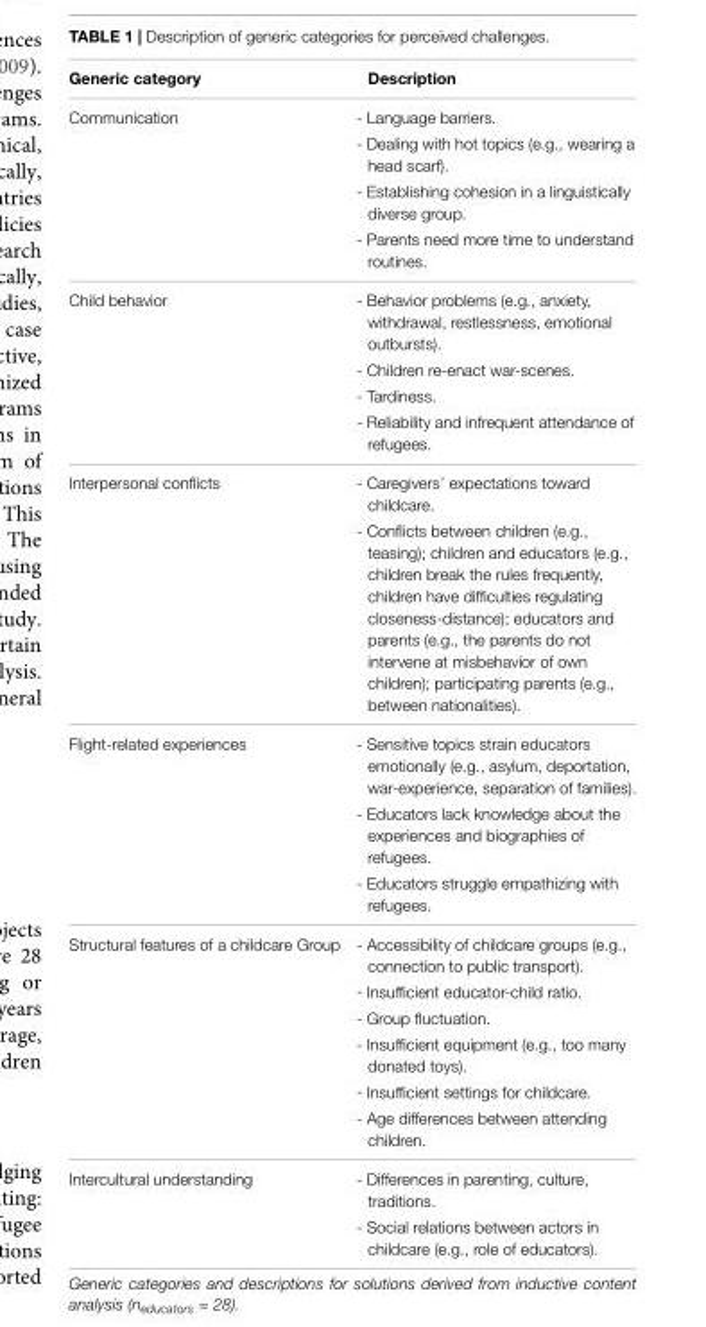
<table><thead><tr><td>Generic category</td><td>Description</td></tr></thead><tbody><tr><td rowspan="4">Communication</td><td>- Language barriers.</td></tr><tr><td>- Dealing with hot topics (e.g., wearing a head scarf).</td></tr><tr><td>- Establishing cohesion in a linguistically diverse group.</td></tr><tr><td>- Parents need more time to understand routines.</td></tr><tr><td rowspan="4">Child behavior</td><td>- Behavior problems (e.g., anxiety, withdrawal, restlessness, emotional outbursts).</td></tr><tr><td>- Children re-enact war-scenes.</td></tr><tr><td>- Tardiness.</td></tr><tr><td>- Reliability and infrequent attendance of refugees.</td></tr><tr><td rowspan="2">Interpersonal conflicts</td><td>- Caregivers’ expectations toward childcare.</td></tr><tr><td>- Conflicts between children (e.g., teasing); children and educators (e.g., children break the rules frequently, children have difficulties regulating closeness-distance); educators and parents (e.g., the parents do not intervene at misbehavior of own children); participating parents (e.g., between nationalities).</td></tr><tr><td rowspan="3">Flight-related experiences</td><td>- Sensitive topics strain educators emotionally (e.g., asylum, deportation, war-experience, separation of families).</td></tr><tr><td>- Educators lack knowledge about the experiences and biographies of refugees.</td></tr><tr><td>- Educators struggle empathizing with refugees.</td></tr><tr><td rowspan="6">Structural features of a childcare Group</td><td>- Accessibility of childcare groups (e.g., connection to public transport).</td></tr><tr><td>- Insufficient educator-child ratio.</td></tr><tr><td>- Group fluctuation.</td></tr><tr><td>- Insufficient equipment (e.g., too many donated toys).</td></tr><tr><td>- Insufficient settings for childcare.</td></tr><tr><td>- Age differences between attending children.</td></tr><tr><td rowspan="2">Intercultural understanding</td><td>- Differences in parenting, culture, traditions.</td></tr><tr><td>- Social relations between actors in childcare (e.g., role of educators).</td></tr></tbody></table>